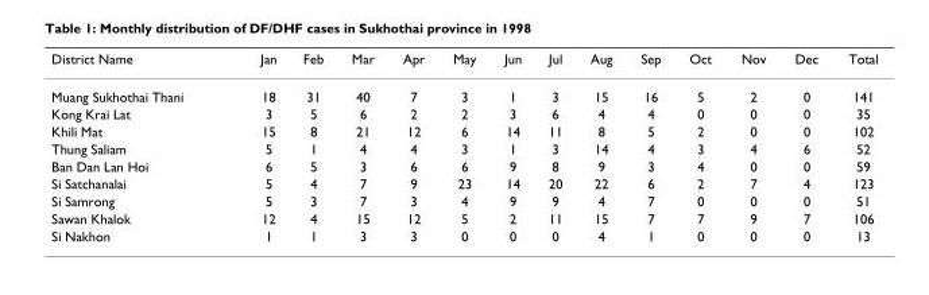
<table><thead><tr><td>District Name</td><td>Jan</td><td>Feb</td><td>Mar</td><td>Apr</td><td>May</td><td>Jun</td><td>Jul</td><td>Aug</td><td>Sep</td><td>Oct</td><td>Nov</td><td>Dec</td><td>Total</td></tr></thead><tbody><tr><td>Muang Sukhothai Thani</td><td>18</td><td>31</td><td>40</td><td>7</td><td>3</td><td>1</td><td>3</td><td>15</td><td>16</td><td>5</td><td>2</td><td>0</td><td>141</td></tr><tr><td>Kong Krai Lat</td><td>3</td><td>5</td><td>6</td><td>2</td><td>2</td><td>3</td><td>6</td><td>4</td><td>4</td><td>0</td><td>0</td><td>0</td><td>35</td></tr><tr><td>Khili Mat</td><td>15</td><td>8</td><td>21</td><td>12</td><td>6</td><td>14</td><td>11</td><td>8</td><td>5</td><td>2</td><td>0</td><td>0</td><td>102</td></tr><tr><td>Thung Saliam</td><td>5</td><td>1</td><td>4</td><td>4</td><td>3</td><td>1</td><td>3</td><td>14</td><td>4</td><td>3</td><td>4</td><td>6</td><td>52</td></tr><tr><td>Ban Dan Lan Hoi</td><td>6</td><td>5</td><td>3</td><td>6</td><td>6</td><td>9</td><td>8</td><td>9</td><td>3</td><td>4</td><td>0</td><td>0</td><td>59</td></tr><tr><td>Si Satchanalai</td><td>5</td><td>4</td><td>7</td><td>9</td><td>23</td><td>14</td><td>20</td><td>22</td><td>6</td><td>2</td><td>7</td><td>4</td><td>123</td></tr><tr><td>Si Samrong</td><td>5</td><td>3</td><td>7</td><td>3</td><td>4</td><td>9</td><td>9</td><td>4</td><td>7</td><td>0</td><td>0</td><td>0</td><td>51</td></tr><tr><td>Sawan Khalok</td><td>12</td><td>4</td><td>15</td><td>12</td><td>5</td><td>2</td><td>11</td><td>15</td><td>7</td><td>7</td><td>9</td><td>7</td><td>106</td></tr><tr><td>Si Nakhon</td><td>1</td><td>1</td><td>3</td><td>3</td><td>0</td><td>0</td><td>0</td><td>4</td><td>1</td><td>0</td><td>0</td><td>0</td><td>13</td></tr></tbody></table>